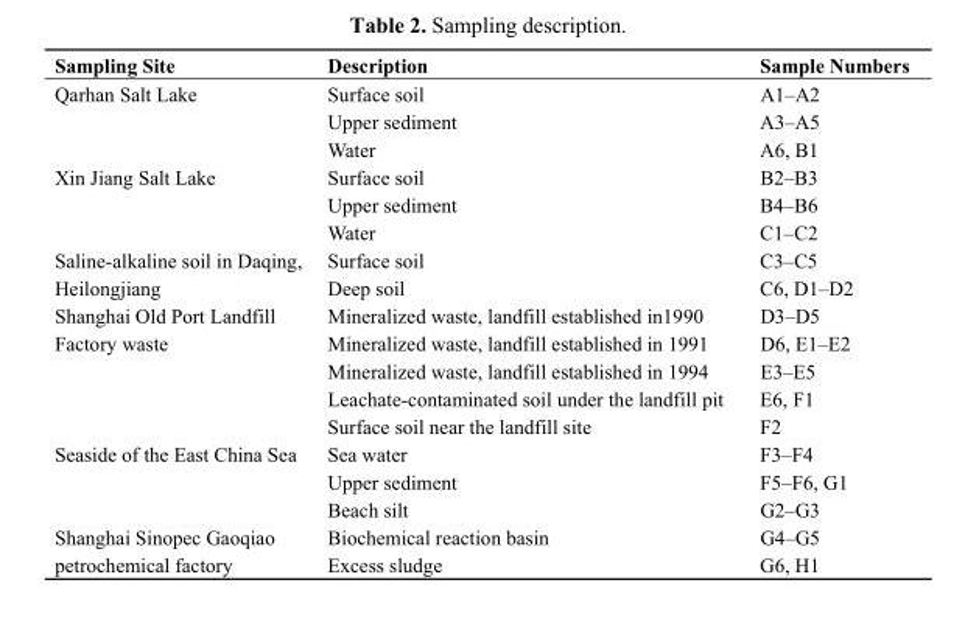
<table><thead><tr><td>Sampling Site</td><td>Description</td><td>Sample Numbers</td></tr></thead><tbody><tr><td rowspan="3">Qarhan Salt Lake</td><td>Surface soil</td><td>A1–A2</td></tr><tr><td>Upper sediment</td><td>A3–A5</td></tr><tr><td>Water</td><td>A6, B1</td></tr><tr><td rowspan="3">Xin Jiang Salt Lake</td><td>Surface soil</td><td>B2–B3</td></tr><tr><td>Upper sediment</td><td>B4–B6</td></tr><tr><td>Water</td><td>C1–C2</td></tr><tr><td rowspan="2">Saline-alkaline soil in Daqing, Heilongjiang</td><td>Surface soil</td><td>C3–C5</td></tr><tr><td>Deep soil</td><td>C6, D1–D2</td></tr><tr><td rowspan="5">Shanghai Old Port Landfill Factory waste</td><td>Mineralized waste, landfill established in1990</td><td>D3–D5</td></tr><tr><td>Mineralized waste, landfill established in 1991</td><td>D6, E1–E2</td></tr><tr><td>Mineralized waste, landfill established in 1994</td><td>E3–E5</td></tr><tr><td>Leachate-contaminated soil under the landfill pit</td><td>E6, F1</td></tr><tr><td>Surface soil near the landfill site</td><td>F2</td></tr><tr><td rowspan="3">Seaside of the East China Sea</td><td>Sea water</td><td>F3–F4</td></tr><tr><td>Upper sediment</td><td>F5–F6, G1</td></tr><tr><td>Beach silt</td><td>G2–G3</td></tr><tr><td rowspan="2">Shanghai Sinopec Gaoqiao petrochemical factory</td><td>Biochemical reaction basin</td><td>G4–G5</td></tr><tr><td>Excess sludge</td><td>G6, H1</td></tr></tbody></table>